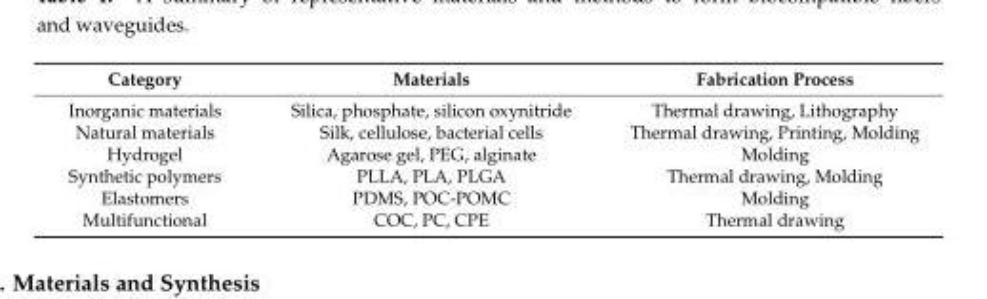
<table><thead><tr><td>Category</td><td>Materials</td><td>Fabrication Process</td></tr></thead><tbody><tr><td>Inorganic materials</td><td>Silica, phosphate, silicon oxynitride</td><td>Thermal drawing, Lithography</td></tr><tr><td>Natural materials</td><td>Silk, cellulose, bacterial cells</td><td>Thermal drawing, Printing, Molding</td></tr><tr><td>Hydrogel</td><td>Agarose gel, PEG, alginate</td><td>Molding</td></tr><tr><td>Synthetic polymers</td><td>PLLA, PLA, PLGA</td><td>Thermal drawing, Molding</td></tr><tr><td>Elastomers</td><td>PDMS, POC-POMC</td><td>Molding</td></tr><tr><td>Multifunctional</td><td>COC, PC, CPE</td><td>Thermal drawing</td></tr></tbody></table>